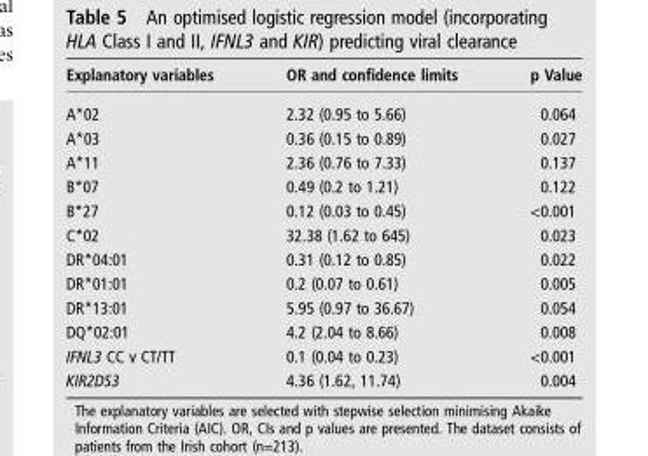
<table><thead><tr><td>Explanatory variables</td><td>OR and confidence limits</td><td>p Value</td></tr></thead><tbody><tr><td>A*02</td><td>2.32 (0.95 to 5.66)</td><td>0.064</td></tr><tr><td>A*03</td><td>0.36 (0.15 to 0.89)</td><td>0.027</td></tr><tr><td>A*11</td><td>2.36 (0.76 to 7.33)</td><td>0.137</td></tr><tr><td>B*07</td><td>0.49 (0.2 to 1.21)</td><td>0.122</td></tr><tr><td>B*27</td><td>0.12 (0.03 to 0.45)</td><td>&lt;0.001</td></tr><tr><td>C*02</td><td>32.38 (1.62 to 645)</td><td>0.023</td></tr><tr><td>DR*04:01</td><td>0.31 (0.12 to 0.85)</td><td>0.022</td></tr><tr><td>DR*01:01</td><td>0.2 (0.07 to 0.61)</td><td>0.005</td></tr><tr><td>DR*13:01</td><td>5.95 (0.97 to 36.67)</td><td>0.054</td></tr><tr><td>DQ*02:01</td><td>4.2 (2.04 to 8.66)</td><td>0.008</td></tr><tr><td>IFNL3 CC v CT/TT</td><td>0.1 (0.04 to 0.23)</td><td>&lt;0.001</td></tr><tr><td>KIR2DS3</td><td>4.36 (1.62, 11.74)</td><td>0.004</td></tr></tbody></table>